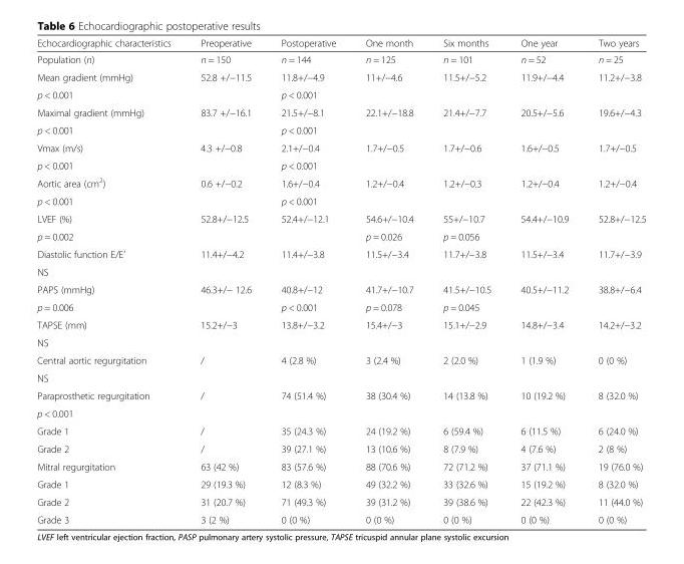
<table><thead><tr><td>Echocardiographic characteristics</td><td>Preoperative</td><td>Postoperative</td><td>One month</td><td>Six months</td><td>One year</td><td>Two years</td></tr></thead><tbody><tr><td>Population (n)</td><td>n = 150</td><td>n = 144</td><td>n = 125</td><td>n = 101</td><td>n = 52</td><td>n = 25</td></tr><tr><td>Mean gradient (mmHg)</td><td rowspan="2">52.8 +/−11.5</td><td>11.8+/−4.9</td><td rowspan="2">11+/−4.6</td><td rowspan="2">11.5+/−5.2</td><td rowspan="2">11.9+/−4.4</td><td rowspan="2">11.2+/−3.8</td></tr><tr><td>p &lt; 0.001</td><td>p &lt; 0.001</td></tr><tr><td>Maximal gradient (mmHg)</td><td rowspan="2">83.7 +/−16.1</td><td>21.5+/−8.1</td><td rowspan="2">22.1+/−18.8</td><td rowspan="2">21.4+/−7.7</td><td rowspan="2">20.5+/−5.6</td><td rowspan="2">19.6+/−4.3</td></tr><tr><td>p &lt; 0.001</td><td>p &lt; 0.001</td></tr><tr><td>Vmax (m/s)</td><td rowspan="2">4.3 +/−0.8</td><td>2.1+/−0.4</td><td rowspan="2">1.7+/−0.5</td><td rowspan="2">1.7+/−0.6</td><td rowspan="2">1.6+/−0.5</td><td rowspan="2">1.7+/−0.5</td></tr><tr><td>p &lt; 0.001</td><td>p &lt; 0.001</td></tr><tr><td>Aortic area (cm<sup>2</sup>)</td><td rowspan="2">0.6 +/−0.2</td><td>1.6+/−0.4</td><td rowspan="2">1.2+/−0.4</td><td rowspan="2">1.2+/−0.3</td><td rowspan="2">1.2+/−0.4</td><td rowspan="2">1.2+/−0.4</td></tr><tr><td>p &lt; 0.001</td><td>p &lt; 0.001</td></tr><tr><td>LVEF (%)</td><td rowspan="2">52.8+/−12.5</td><td rowspan="2">52.4+/−12.1</td><td>54.6+/−10.4</td><td>55+/−10.7</td><td rowspan="2">54.4+/−10.9</td><td rowspan="2">52.8+/−12.5</td></tr><tr><td>p = 0.002</td><td>p = 0.026</td><td>p = 0.056</td></tr><tr><td>Diastolic function E/E’</td><td rowspan="2">11.4+/−4.2</td><td rowspan="2">11.4+/−3.8</td><td rowspan="2">11.5+/−3.4</td><td rowspan="2">11.7+/−3.8</td><td rowspan="2">11.5+/−3.4</td><td rowspan="2">11.7+/−3.9</td></tr><tr><td>NS</td></tr><tr><td>PAPS (mmHg)</td><td rowspan="2">46.3+/− 12.6</td><td>40.8+/−12</td><td>41.7+/−10.7</td><td>41.5+/−10.5</td><td rowspan="2">40.5+/−11.2</td><td rowspan="2">38.8+/−6.4</td></tr><tr><td>p = 0.006</td><td>p &lt; 0.001</td><td>p = 0.078</td><td>p = 0.045</td></tr><tr><td>TAPSE (mm)</td><td rowspan="2">15.2+/−3</td><td rowspan="2">13.8+/−3.2</td><td rowspan="2">15.4+/−3</td><td rowspan="2">15.1+/−2.9</td><td rowspan="2">14.8+/−3.4</td><td rowspan="2">14.2+/−3.2</td></tr><tr><td>NS</td></tr><tr><td>Central aortic regurgitation</td><td rowspan="2">/</td><td rowspan="2">4 (2.8 %)</td><td rowspan="2">3 (2.4 %)</td><td rowspan="2">2 (2.0 %)</td><td rowspan="2">1 (1.9 %)</td><td rowspan="2">0 (0 %)</td></tr><tr><td>NS</td></tr><tr><td>Paraprosthetic regurgitation</td><td rowspan="2">/</td><td rowspan="2">74 (51.4 %)</td><td rowspan="2">38 (30.4 %)</td><td rowspan="2">14 (13.8 %)</td><td rowspan="2">10 (19.2 %)</td><td rowspan="2">8 (32.0 %)</td></tr><tr><td>p &lt; 0.001</td></tr><tr><td>Grade 1</td><td>/</td><td>35 (24.3 %)</td><td>24 (19.2 %)</td><td>6 (59.4 %)</td><td>6 (11.5 %)</td><td>6 (24.0 %)</td></tr><tr><td>Grade 2</td><td>/</td><td>39 (27.1 %)</td><td>13 (10.6 %)</td><td>8 (7.9 %)</td><td>4 (7.6 %)</td><td>2 (8 %)</td></tr><tr><td>Mitral regurgitation</td><td>63 (42 %)</td><td>83 (57.6 %)</td><td>88 (70.6 %)</td><td>72 (71.2 %)</td><td>37 (71.1 %)</td><td>19 (76.0 %)</td></tr><tr><td>Grade 1</td><td>29 (19.3 %)</td><td>12 (8.3 %)</td><td>49 (32.2 %)</td><td>33 (32.6 %)</td><td>15 (19.2 %)</td><td>8 (32.0 %)</td></tr><tr><td>Grade 2</td><td>31 (20.7 %)</td><td>71 (49.3 %)</td><td>39 (31.2 %)</td><td>39 (38.6 %)</td><td>22 (42.3 %)</td><td>11 (44.0 %)</td></tr><tr><td>Grade 3</td><td>3 (2 %)</td><td>0 (0 %)</td><td>0 (0 %)</td><td>0 (0 %)</td><td>0 (0 %)</td><td>0 (0 %)</td></tr></tbody></table>